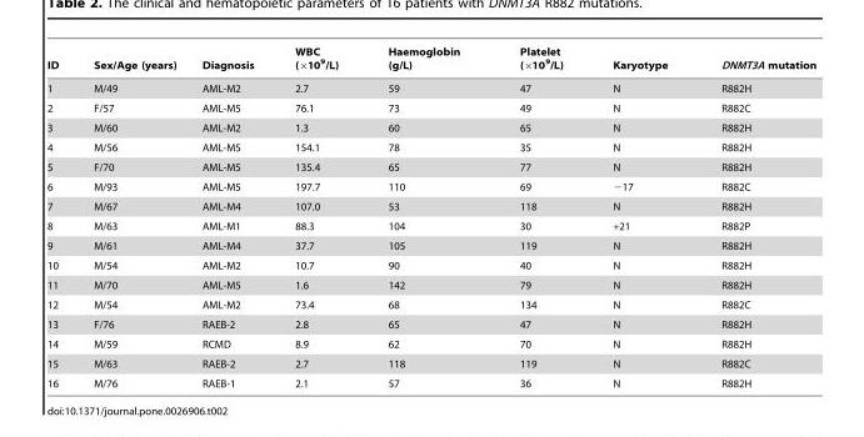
<table><thead><tr><td>ID</td><td>Sex/Age (years)</td><td>Diagnosis</td><td>WBC (×10<sup>9</sup>/L)</td><td>Haemoglobin (g/L)</td><td>Platelet (×10<sup>9</sup>/L)</td><td>Karyotype</td><td>DNMT3A mutation</td></tr></thead><tbody><tr><td>1</td><td>M/49</td><td>AML-M2</td><td>2.7</td><td>59</td><td>47</td><td>N</td><td>R882H</td></tr><tr><td>2</td><td>F/57</td><td>AML-M5</td><td>76.1</td><td>73</td><td>49</td><td>N</td><td>R882C</td></tr><tr><td>3</td><td>M/60</td><td>AML-M2</td><td>1.3</td><td>60</td><td>65</td><td>N</td><td>R882H</td></tr><tr><td>4</td><td>M/56</td><td>AML-M5</td><td>154.1</td><td>78</td><td>35</td><td>N</td><td>R882H</td></tr><tr><td>5</td><td>F/70</td><td>AML-M5</td><td>135.4</td><td>65</td><td>77</td><td>N</td><td>R882H</td></tr><tr><td>6</td><td>M/93</td><td>AML-M5</td><td>197.7</td><td>110</td><td>69</td><td>−17</td><td>R882C</td></tr><tr><td>7</td><td>M/67</td><td>AML-M4</td><td>107.0</td><td>53</td><td>118</td><td>N</td><td>R882H</td></tr><tr><td>8</td><td>M/63</td><td>AML-M1</td><td>88.3</td><td>104</td><td>30</td><td>+21</td><td>R882P</td></tr><tr><td>9</td><td>M/61</td><td>AML-M4</td><td>37.7</td><td>105</td><td>119</td><td>N</td><td>R882H</td></tr><tr><td>10</td><td>M/54</td><td>AML-M2</td><td>10.7</td><td>90</td><td>40</td><td>N</td><td>R882H</td></tr><tr><td>11</td><td>M/70</td><td>AML-M5</td><td>1.6</td><td>142</td><td>79</td><td>N</td><td>R882H</td></tr><tr><td>12</td><td>M/54</td><td>AML-M2</td><td>73.4</td><td>68</td><td>134</td><td>N</td><td>R882C</td></tr><tr><td>13</td><td>F/76</td><td>RAEB-2</td><td>2.8</td><td>65</td><td>47</td><td>N</td><td>R882H</td></tr><tr><td>14</td><td>M/59</td><td>RCMD</td><td>8.9</td><td>62</td><td>70</td><td>N</td><td>R882H</td></tr><tr><td>15</td><td>M/63</td><td>RAEB-2</td><td>2.7</td><td>118</td><td>119</td><td>N</td><td>R882C</td></tr><tr><td>16</td><td>M/76</td><td>RAEB-1</td><td>2.1</td><td>57</td><td>36</td><td>N</td><td>R882H</td></tr></tbody></table>